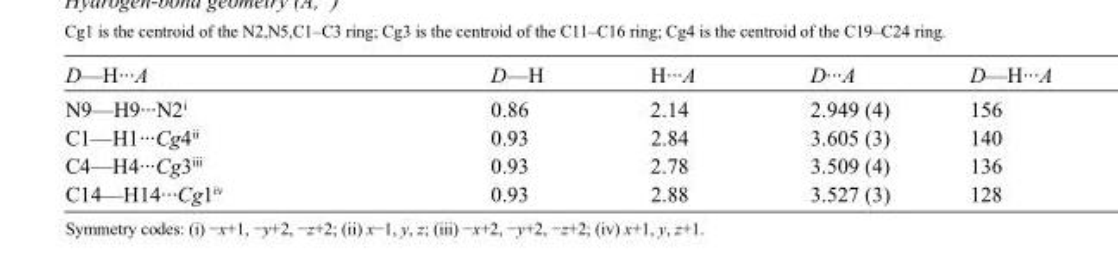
<table><tbody><tr><td>D—H···A</td><td>D—H</td><td>H···A</td><td>D···A</td><td>D—H···A</td></tr><tr><td>N9—H9···N2<sup>i</sup></td><td>0.86</td><td>2.14</td><td>2.949 (4)</td><td>156</td></tr><tr><td>C1—H1···Cg4<sup>ii</sup></td><td>0.93</td><td>2.84</td><td>3.605 (3)</td><td>140</td></tr><tr><td>C4—H4···Cg3<sup>iii</sup></td><td>0.93</td><td>2.78</td><td>3.509 (4)</td><td>136</td></tr><tr><td>C14—H14···Cg1<sup>iv</sup></td><td>0.93</td><td>2.88</td><td>3.527 (3)</td><td>128</td></tr></tbody></table>